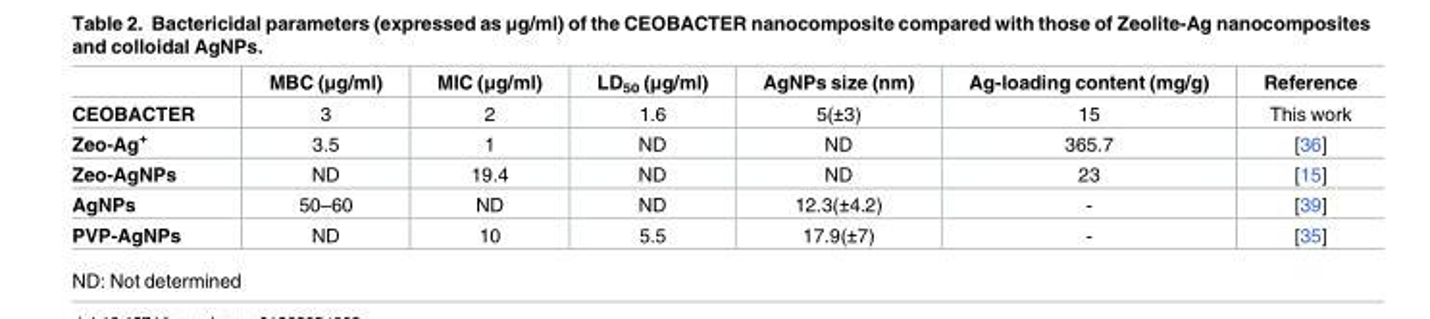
<table><thead><tr><td></td><td>MBC (μg/ml)</td><td>MIC (μg/ml)</td><td>LD<sub>50</sub> (μg/ml)</td><td>AgNPs size (nm)</td><td>Ag-loading content (mg/g)</td><td>Reference</td></tr></thead><tbody><tr><td>CEOBACTER</td><td>3</td><td>2</td><td>1.6</td><td>5(±3)</td><td>15</td><td>This work</td></tr><tr><td>Zeo-Ag<sup>+</sup></td><td>3.5</td><td>1</td><td>ND</td><td>ND</td><td>365.7</td><td>[36]</td></tr><tr><td>Zeo-AgNPs</td><td>ND</td><td>19.4</td><td>ND</td><td>ND</td><td>23</td><td>[15]</td></tr><tr><td>AgNPs</td><td>50–60</td><td>ND</td><td>ND</td><td>12.3(±4.2)</td><td>-</td><td>[39]</td></tr><tr><td>PVP-AgNPs</td><td>ND</td><td>10</td><td>5.5</td><td>17.9(±7)</td><td>-</td><td>[35]</td></tr></tbody></table>